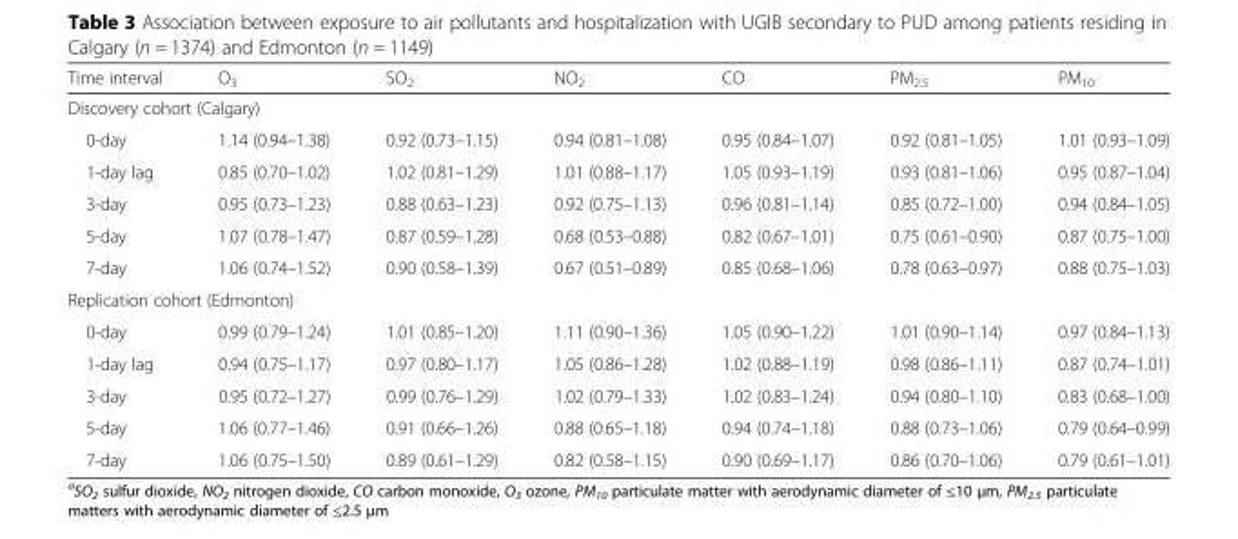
<table><thead><tr><td>Time interval</td><td>O<sub>3</sub></td><td>SO<sub>2</sub></td><td>NO<sub>2</sub></td><td>CO</td><td>PM<sub>2.5</sub></td><td>PM<sub>10</sub></td></tr></thead><tbody><tr><td colspan="7">Discovery cohort (Calgary)</td></tr><tr><td>0-day</td><td>1.14 (0.94–1.38)</td><td>0.92 (0.73–1.15)</td><td>0.94 (0.81–1.08)</td><td>0.95 (0.84–1.07)</td><td>0.92 (0.81–1.05)</td><td>1.01 (0.93–1.09)</td></tr><tr><td>1-day lag</td><td>0.85 (0.70–1.02)</td><td>1.02 (0.81–1.29)</td><td>1.01 (0.88–1.17)</td><td>1.05 (0.93–1.19)</td><td>0.93 (0.81–1.06)</td><td>0.95 (0.87–1.04)</td></tr><tr><td>3-day</td><td>0.95 (0.73–1.23)</td><td>0.88 (0.63–1.23)</td><td>0.92 (0.75–1.13)</td><td>0.96 (0.81–1.14)</td><td>0.85 (0.72–1.00)</td><td>0.94 (0.84–1.05)</td></tr><tr><td>5-day</td><td>1.07 (0.78–1.47)</td><td>0.87 (0.59–1.28)</td><td>0.68 (0.53–0.88)</td><td>0.82 (0.67–1.01)</td><td>0.75 (0.61–0.90)</td><td>0.87 (0.75–1.00)</td></tr><tr><td>7-day</td><td>1.06 (0.74–1.52)</td><td>0.90 (0.58–1.39)</td><td>0.67 (0.51–0.89)</td><td>0.85 (0.68–1.06)</td><td>0.78 (0.63–0.97)</td><td>0.88 (0.75–1.03)</td></tr><tr><td colspan="7">Replication cohort (Edmonton)</td></tr><tr><td>0-day</td><td>0.99 (0.79–1.24)</td><td>1.01 (0.85–1.20)</td><td>1.11 (0.90–1.36)</td><td>1.05 (0.90–1.22)</td><td>1.01 (0.90–1.14)</td><td>0.97 (0.84–1.13)</td></tr><tr><td>1-day lag</td><td>0.94 (0.75–1.17)</td><td>0.97 (0.80–1.17)</td><td>1.05 (0.86–1.28)</td><td>1.02 (0.88–1.19)</td><td>0.98 (0.86–1.11)</td><td>0.87 (0.74–1.01)</td></tr><tr><td>3-day</td><td>0.95 (0.72–1.27)</td><td>0.99 (0.76–1.29)</td><td>1.02 (0.79–1.33)</td><td>1.02 (0.83–1.24)</td><td>0.94 (0.80–1.10)</td><td>0.83 (0.68–1.00)</td></tr><tr><td>5-day</td><td>1.06 (0.77–1.46)</td><td>0.91 (0.66–1.26)</td><td>0.88 (0.65–1.18)</td><td>0.94 (0.74–1.18)</td><td>0.88 (0.73–1.06)</td><td>0.79 (0.64–0.99)</td></tr><tr><td>7-day</td><td>1.06 (0.75–1.50)</td><td>0.89 (0.61–1.29)</td><td>0.82 (0.58–1.15)</td><td>0.90 (0.69–1.17)</td><td>0.86 (0.70–1.06)</td><td>0.79 (0.61–1.01)</td></tr></tbody></table>